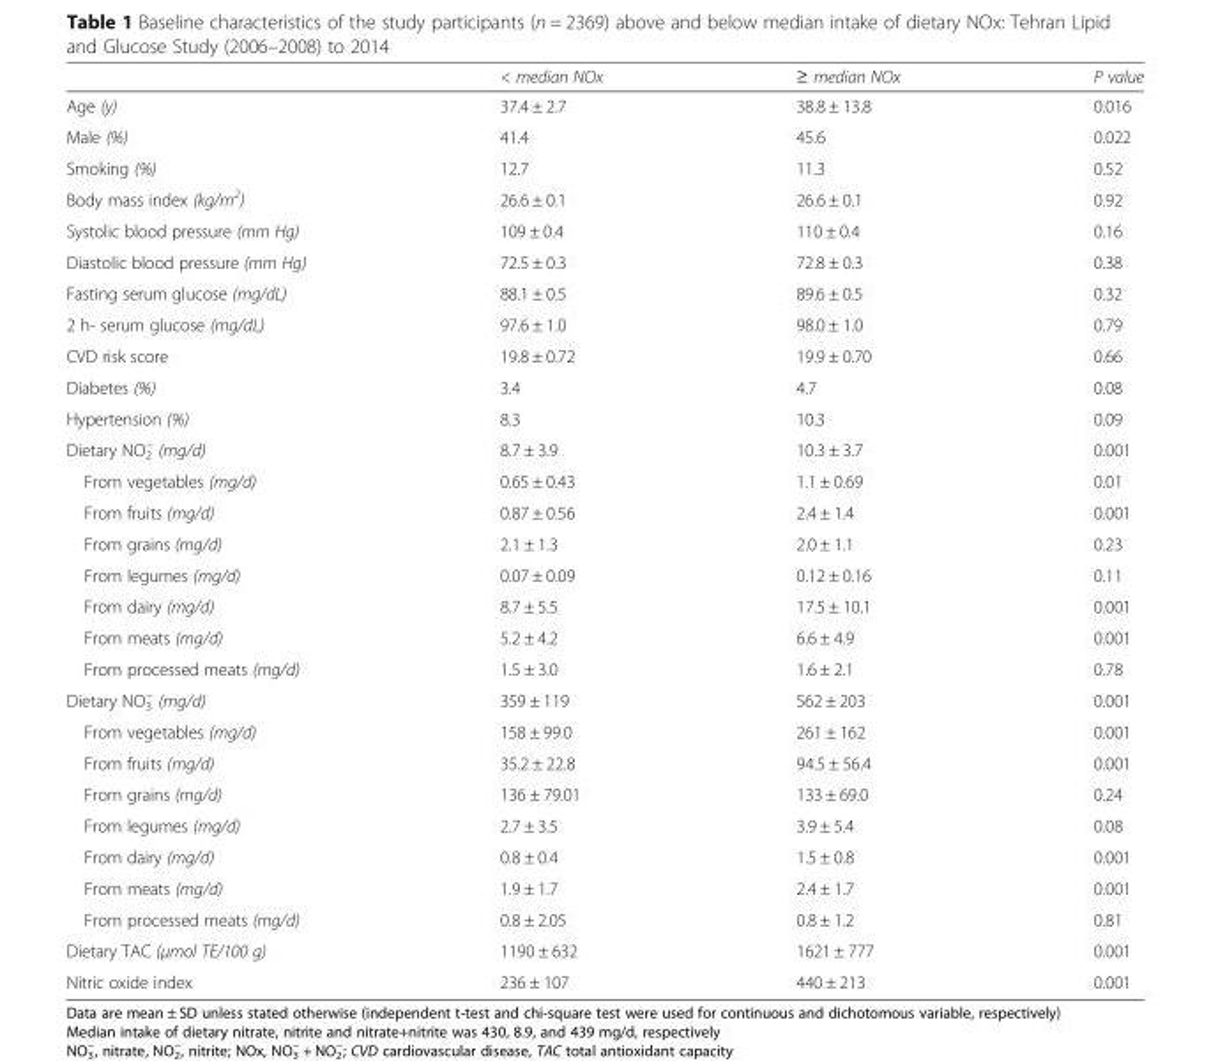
<table><thead><tr><td></td><td>&lt; median NOx</td><td>≥ median NOx</td><td>P value</td></tr></thead><tbody><tr><td>Age (y)</td><td>37.4 ± 2.7</td><td>38.8 ± 13.8</td><td>0.016</td></tr><tr><td>Male (%)</td><td>41.4</td><td>45.6</td><td>0.022</td></tr><tr><td>Smoking (%)</td><td>12.7</td><td>11.3</td><td>0.52</td></tr><tr><td>Body mass index (kg/m<sup>2</sup>)</td><td>26.6 ± 0.1</td><td>26.6 ± 0.1</td><td>0.92</td></tr><tr><td>Systolic blood pressure (mm Hg)</td><td>109 ± 0.4</td><td>110 ± 0.4</td><td>0.16</td></tr><tr><td>Diastolic blood pressure (mm Hg)</td><td>72.5 ± 0.3</td><td>72.8 ± 0.3</td><td>0.38</td></tr><tr><td>Fasting serum glucose (mg/dL)</td><td>88.1 ± 0.5</td><td>89.6 ± 0.5</td><td>0.32</td></tr><tr><td>2 h- serum glucose (mg/dL)</td><td>97.6 ± 1.0</td><td>98.0 ± 1.0</td><td>0.79</td></tr><tr><td>CVD risk score</td><td>19.8 ± 0.72</td><td>19.9 ± 0.70</td><td>0.66</td></tr><tr><td>Diabetes (%)</td><td>3.4</td><td>4.7</td><td>0.08</td></tr><tr><td>Hypertension (%)</td><td>8.3</td><td>10.3</td><td>0.09</td></tr><tr><td>Dietary NO<sub>2</sub> <sup>−</sup> (mg/d)</td><td>8.7 ± 3.9</td><td>10.3 ± 3.7</td><td>0.001</td></tr><tr><td>From vegetables (mg/d)</td><td>0.65 ± 0.43</td><td>1.1 ± 0.69</td><td>0.01</td></tr><tr><td>From fruits (mg/d)</td><td>0.87 ± 0.56</td><td>2.4 ± 1.4</td><td>0.001</td></tr><tr><td>From grains (mg/d)</td><td>2.1 ± 1.3</td><td>2.0 ± 1.1</td><td>0.23</td></tr><tr><td>From legumes (mg/d)</td><td>0.07 ± 0.09</td><td>0.12 ± 0.16</td><td>0.11</td></tr><tr><td>From dairy (mg/d)</td><td>8.7 ± 5.5</td><td>17.5 ± 10.1</td><td>0.001</td></tr><tr><td>From meats (mg/d)</td><td>5.2 ± 4.2</td><td>6.6 ± 4.9</td><td>0.001</td></tr><tr><td>From processed meats (mg/d)</td><td>1.5 ± 3.0</td><td>1.6 ± 2.1</td><td>0.78</td></tr><tr><td>Dietary NO<sub>3</sub> <sup>−</sup> (mg/d)</td><td>359 ± 119</td><td>562 ± 203</td><td>0.001</td></tr><tr><td>From vegetables (mg/d)</td><td>158 ± 99.0</td><td>261 ± 162</td><td>0.001</td></tr><tr><td>From fruits (mg/d)</td><td>35.2 ± 22.8</td><td>94.5 ± 56.4</td><td>0.001</td></tr><tr><td>From grains (mg/d)</td><td>136 ± 79.01</td><td>133 ± 69.0</td><td>0.24</td></tr><tr><td>From legumes (mg/d)</td><td>2.7 ± 3.5</td><td>3.9 ± 5.4</td><td>0.08</td></tr><tr><td>From dairy (mg/d)</td><td>0.8 ± 0.4</td><td>1.5 ± 0.8</td><td>0.001</td></tr><tr><td>From meats (mg/d)</td><td>1.9 ± 1.7</td><td>2.4 ± 1.7</td><td>0.001</td></tr><tr><td>From processed meats (mg/d)</td><td>0.8 ± 2.05</td><td>0.8 ± 1.2</td><td>0.81</td></tr><tr><td>Dietary TAC (μmol TE/100 g)</td><td>1190 ± 632</td><td>1621 ± 777</td><td>0.001</td></tr><tr><td>Nitric oxide index</td><td>236 ± 107</td><td>440 ± 213</td><td>0.001</td></tr></tbody></table>